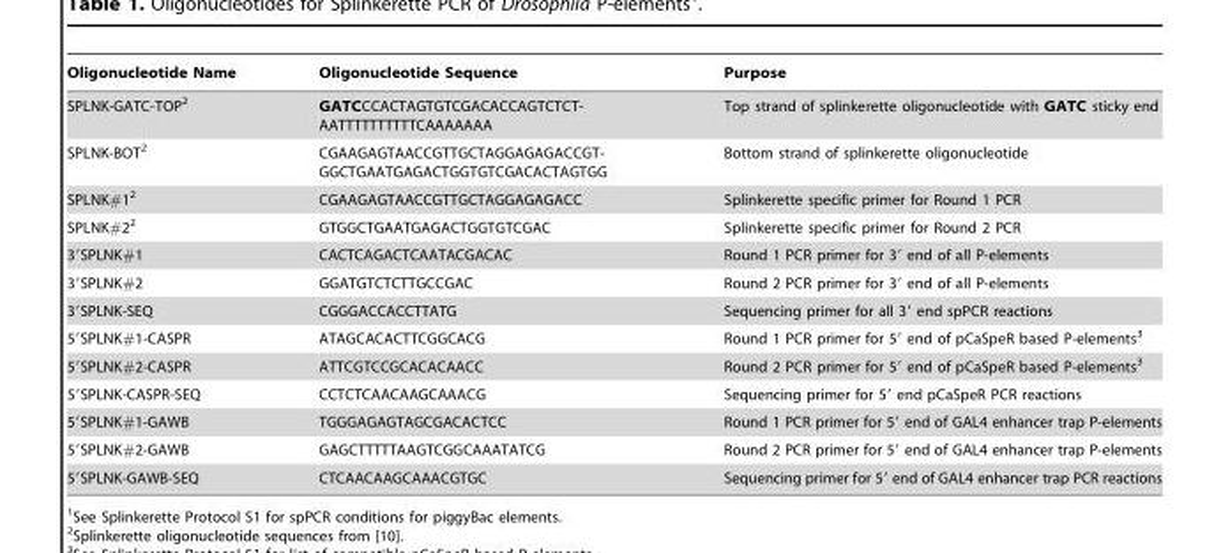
<table><thead><tr><td>Oligonucleotide Name</td><td>Oligonucleotide Sequence</td><td>Purpose</td></tr></thead><tbody><tr><td>SPLNK-GATC-TOP<sup>2</sup></td><td>GATCCCACTAGTGTCGACACCAGTCTCT- AATTTTTTTTTTCAAAAAAA</td><td>Top strand of splinkerette oligonucleotide with GATC sticky end</td></tr><tr><td>SPLNK-BOT<sup>2</sup></td><td>CGAAGAGTAACCGTTGCTAGGAGAGACCGT- GGCTGAATGAGACTGGTGTCGACACTAGTGG</td><td>Bottom strand of splinkerette oligonucleotide</td></tr><tr><td>SPLNK#1<sup>2</sup></td><td>CGAAGAGTAACCGTTGCTAGGAGAGACC</td><td>Splinkerette specific primer for Round 1 PCR</td></tr><tr><td>SPLNK#2<sup>2</sup></td><td>GTGGCTGAATGAGACTGGTGTCGAC</td><td>Splinkerette specific primer for Round 2 PCR</td></tr><tr><td>3′SPLNK#1</td><td>CACTCAGACTCAATACGACAC</td><td>Round 1 PCR primer for 3′ end of all P-elements</td></tr><tr><td>3′SPLNK#2</td><td>GGATGTCTCTTGCCGAC</td><td>Round 2 PCR primer for 3′ end of all P-elements</td></tr><tr><td>3′SPLNK-SEQ</td><td>CGGGACCACCTTATG</td><td>Sequencing primer for all 3′ end spPCR reactions</td></tr><tr><td>5′SPLNK#1-CASPR</td><td>ATAGCACACTTCGGCACG</td><td>Round 1 PCR primer for 5′ end of pCaSpeR based P-elements<sup>3</sup></td></tr><tr><td>5′SPLNK#2-CASPR</td><td>ATTCGTCCGCACACAACC</td><td>Round 2 PCR primer for 5′ end of pCaSpeR based P-elements<sup>3</sup></td></tr><tr><td>5′SPLNK-CASPR-SEQ</td><td>CCTCTCAACAAGCAAACG</td><td>Sequencing primer for 5′ end pCaSpeR PCR reactions</td></tr><tr><td>5′SPLNK#1-GAWB</td><td>TGGGAGAGTAGCGACACTCC</td><td>Round 1 PCR primer for 5′ end of GAL4 enhancer trap P-elements</td></tr><tr><td>5′SPLNK#2-GAWB</td><td>GAGCTTTTTAAGTCGGCAAATATCG</td><td>Round 2 PCR primer for 5′ end of GAL4 enhancer trap P-elements</td></tr><tr><td>5′SPLNK-GAWB-SEQ</td><td>CTCAACAAGCAAACGTGC</td><td>Sequencing primer for 5′ end of GAL4 enhancer trap PCR reactions</td></tr></tbody></table>